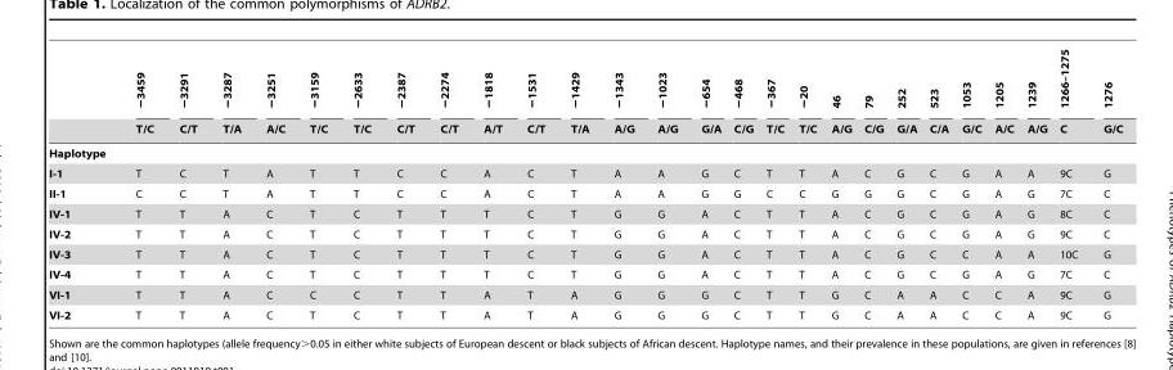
<table><thead><tr><td rowspan="2"></td><td rowspan="2">−3459 T/C</td><td rowspan="2">−3291 C/T</td><td rowspan="2">−3287 T/A</td><td rowspan="2">−3251 A/C</td><td rowspan="2">−3159 T/C</td><td rowspan="2">−2633 T/C</td><td rowspan="2">−2387 C/T</td><td rowspan="2">−2274 C/T</td><td rowspan="2">−1818 A/T</td><td rowspan="2">−1531 C/T</td><td rowspan="2">−1429 T/A</td><td rowspan="2">−1343 A/G</td><td rowspan="2">−1023 A/G</td><td rowspan="2">−654 G/A</td><td rowspan="2">−468 C/G</td><td rowspan="2">−367 T/C</td><td rowspan="2">−20 T/C</td><td rowspan="2">46 A/G</td><td rowspan="2">79 C/G</td><td rowspan="2">252 G/A</td><td rowspan="2">523 C/A</td><td rowspan="2">1053 G/C</td><td rowspan="2">1205 A/C</td><td rowspan="2">1239 A/G</td><td rowspan="2">1266–1275 C</td><td rowspan="2">1276 G/C</td></tr><tr></tr></thead><tbody><tr><td colspan="27">Haplotype</td></tr><tr><td>I-1</td><td>T</td><td>C</td><td>T</td><td>A</td><td>T</td><td>T</td><td>C</td><td>C</td><td>A</td><td>C</td><td>T</td><td>A</td><td>A</td><td>G</td><td>C</td><td>T</td><td>T</td><td>A</td><td>C</td><td>G</td><td>C</td><td>G</td><td>A</td><td>A</td><td>9C</td><td>G</td></tr><tr><td>II-1</td><td>C</td><td>C</td><td>T</td><td>A</td><td>T</td><td>T</td><td>C</td><td>C</td><td>A</td><td>C</td><td>T</td><td>A</td><td>A</td><td>G</td><td>G</td><td>C</td><td>C</td><td>G</td><td>G</td><td>G</td><td>C</td><td>G</td><td>A</td><td>G</td><td>7C</td><td>C</td></tr><tr><td>IV-1</td><td>T</td><td>T</td><td>A</td><td>C</td><td>T</td><td>C</td><td>T</td><td>T</td><td>T</td><td>C</td><td>T</td><td>G</td><td>G</td><td>A</td><td>C</td><td>T</td><td>T</td><td>A</td><td>C</td><td>G</td><td>C</td><td>G</td><td>A</td><td>G</td><td>8C</td><td>C</td></tr><tr><td>IV-2</td><td>T</td><td>T</td><td>A</td><td>C</td><td>T</td><td>C</td><td>T</td><td>T</td><td>T</td><td>C</td><td>T</td><td>G</td><td>G</td><td>A</td><td>C</td><td>T</td><td>T</td><td>A</td><td>C</td><td>G</td><td>C</td><td>G</td><td>A</td><td>G</td><td>9C</td><td>C</td></tr><tr><td>IV-3</td><td>T</td><td>T</td><td>A</td><td>C</td><td>T</td><td>C</td><td>T</td><td>T</td><td>T</td><td>C</td><td>T</td><td>G</td><td>G</td><td>A</td><td>C</td><td>T</td><td>T</td><td>A</td><td>C</td><td>G</td><td>C</td><td>C</td><td>A</td><td>A</td><td>10C</td><td>G</td></tr><tr><td>IV-4</td><td>T</td><td>T</td><td>A</td><td>C</td><td>T</td><td>C</td><td>T</td><td>T</td><td>T</td><td>C</td><td>T</td><td>G</td><td>G</td><td>A</td><td>C</td><td>T</td><td>T</td><td>A</td><td>C</td><td>G</td><td>C</td><td>G</td><td>A</td><td>G</td><td>7C</td><td>C</td></tr><tr><td>VI-1</td><td>T</td><td>T</td><td>A</td><td>C</td><td>C</td><td>C</td><td>T</td><td>T</td><td>A</td><td>T</td><td>A</td><td>G</td><td>G</td><td>G</td><td>C</td><td>T</td><td>T</td><td>G</td><td>C</td><td>A</td><td>A</td><td>C</td><td>C</td><td>A</td><td>9C</td><td>G</td></tr><tr><td>VI-2</td><td>T</td><td>T</td><td>A</td><td>C</td><td>T</td><td>C</td><td>T</td><td>T</td><td>A</td><td>T</td><td>A</td><td>G</td><td>G</td><td>G</td><td>C</td><td>T</td><td>T</td><td>G</td><td>C</td><td>A</td><td>A</td><td>C</td><td>C</td><td>A</td><td>9C</td><td>G</td></tr></tbody></table>